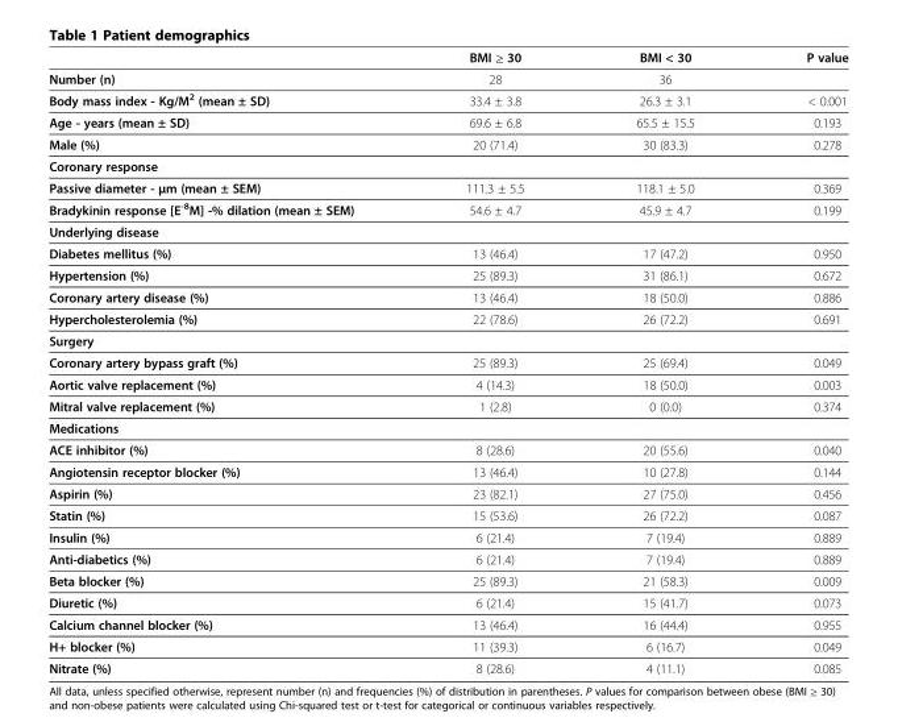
<table><thead><tr><td></td><td>BMI ≥ 30</td><td>BMI &lt; 30</td><td>P value</td></tr></thead><tbody><tr><td>Number (n)</td><td>28</td><td>36</td><td></td></tr><tr><td>Body mass index - Kg/M<sup>2</sup> (mean ± SD)</td><td>33.4 ± 3.8</td><td>26.3 ± 3.1</td><td>&lt; 0.001</td></tr><tr><td>Age - years (mean ± SD)</td><td>69.6 ± 6.8</td><td>65.5 ± 15.5</td><td>0.193</td></tr><tr><td>Male (%)</td><td>20 (71.4)</td><td>30 (83.3)</td><td>0.278</td></tr><tr><td colspan="4">Coronary response</td></tr><tr><td>Passive diameter - μm (mean ± SEM)</td><td>111.3 ± 5.5</td><td>118.1 ± 5.0</td><td>0.369</td></tr><tr><td>Bradykinin response [E<sup>-8</sup>M] -% dilation (mean ± SEM)</td><td>54.6 ± 4.7</td><td>45.9 ± 4.7</td><td>0.199</td></tr><tr><td colspan="4">Underlying disease</td></tr><tr><td>Diabetes mellitus (%)</td><td>13 (46.4)</td><td>17 (47.2)</td><td>0.950</td></tr><tr><td>Hypertension (%)</td><td>25 (89.3)</td><td>31 (86.1)</td><td>0.672</td></tr><tr><td>Coronary artery disease (%)</td><td>13 (46.4)</td><td>18 (50.0)</td><td>0.886</td></tr><tr><td>Hypercholesterolemia (%)</td><td>22 (78.6)</td><td>26 (72.2)</td><td>0.691</td></tr><tr><td colspan="4">Surgery</td></tr><tr><td>Coronary artery bypass graft (%)</td><td>25 (89.3)</td><td>25 (69.4)</td><td>0.049</td></tr><tr><td>Aortic valve replacement (%)</td><td>4 (14.3)</td><td>18 (50.0)</td><td>0.003</td></tr><tr><td>Mitral valve replacement (%)</td><td>1 (2.8)</td><td>0 (0.0)</td><td>0.374</td></tr><tr><td colspan="4">Medications</td></tr><tr><td>ACE inhibitor (%)</td><td>8 (28.6)</td><td>20 (55.6)</td><td>0.040</td></tr><tr><td>Angiotensin receptor blocker (%)</td><td>13 (46.4)</td><td>10 (27.8)</td><td>0.144</td></tr><tr><td>Aspirin (%)</td><td>23 (82.1)</td><td>27 (75.0)</td><td>0.456</td></tr><tr><td>Statin (%)</td><td>15 (53.6)</td><td>26 (72.2)</td><td>0.087</td></tr><tr><td>Insulin (%)</td><td>6 (21.4)</td><td>7 (19.4)</td><td>0.889</td></tr><tr><td>Anti-diabetics (%)</td><td>6 (21.4)</td><td>7 (19.4)</td><td>0.889</td></tr><tr><td>Beta blocker (%)</td><td>25 (89.3)</td><td>21 (58.3)</td><td>0.009</td></tr><tr><td>Diuretic (%)</td><td>6 (21.4)</td><td>15 (41.7)</td><td>0.073</td></tr><tr><td>Calcium channel blocker (%)</td><td>13 (46.4)</td><td>16 (44.4)</td><td>0.955</td></tr><tr><td>H+ blocker (%)</td><td>11 (39.3)</td><td>6 (16.7)</td><td>0.049</td></tr><tr><td>Nitrate (%)</td><td>8 (28.6)</td><td>4 (11.1)</td><td>0.085</td></tr></tbody></table>